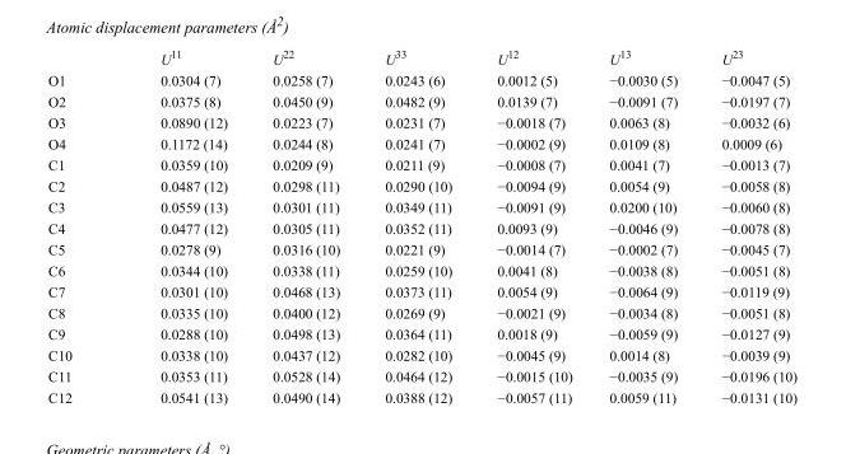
<table><thead><tr><td></td><td>U<sup>11</sup></td><td>U<sup>22</sup></td><td>U<sup>33</sup></td><td>U<sup>12</sup></td><td>U<sup>13</sup></td><td>U<sup>23</sup></td></tr></thead><tbody><tr><td>O1</td><td>0.0304 (7)</td><td>0.0258 (7)</td><td>0.0243 (6)</td><td>0.0012 (5)</td><td>−0.0030 (5)</td><td>−0.0047 (5)</td></tr><tr><td>O2</td><td>0.0375 (8)</td><td>0.0450 (9)</td><td>0.0482 (9)</td><td>0.0139 (7)</td><td>−0.0091 (7)</td><td>−0.0197 (7)</td></tr><tr><td>O3</td><td>0.0890 (12)</td><td>0.0223 (7)</td><td>0.0231 (7)</td><td>−0.0018 (7)</td><td>0.0063 (8)</td><td>−0.0032 (6)</td></tr><tr><td>O4</td><td>0.1172 (14)</td><td>0.0244 (8)</td><td>0.0241 (7)</td><td>−0.0002 (9)</td><td>0.0109 (8)</td><td>0.0009 (6)</td></tr><tr><td>C1</td><td>0.0359 (10)</td><td>0.0209 (9)</td><td>0.0211 (9)</td><td>−0.0008 (7)</td><td>0.0041 (7)</td><td>−0.0013 (7)</td></tr><tr><td>C2</td><td>0.0487 (12)</td><td>0.0298 (11)</td><td>0.0290 (10)</td><td>−0.0094 (9)</td><td>0.0054 (9)</td><td>−0.0058 (8)</td></tr><tr><td>C3</td><td>0.0559 (13)</td><td>0.0301 (11)</td><td>0.0349 (11)</td><td>−0.0091 (9)</td><td>0.0200 (10)</td><td>−0.0060 (8)</td></tr><tr><td>C4</td><td>0.0477 (12)</td><td>0.0305 (11)</td><td>0.0352 (11)</td><td>0.0093 (9)</td><td>−0.0046 (9)</td><td>−0.0078 (8)</td></tr><tr><td>C5</td><td>0.0278 (9)</td><td>0.0316 (10)</td><td>0.0221 (9)</td><td>−0.0014 (7)</td><td>−0.0002 (7)</td><td>−0.0045 (7)</td></tr><tr><td>C6</td><td>0.0344 (10)</td><td>0.0338 (11)</td><td>0.0259 (10)</td><td>0.0041 (8)</td><td>−0.0038 (8)</td><td>−0.0051 (8)</td></tr><tr><td>C7</td><td>0.0301 (10)</td><td>0.0468 (13)</td><td>0.0373 (11)</td><td>0.0054 (9)</td><td>−0.0064 (9)</td><td>−0.0119 (9)</td></tr><tr><td>C8</td><td>0.0335 (10)</td><td>0.0400 (12)</td><td>0.0269 (9)</td><td>−0.0021 (9)</td><td>−0.0034 (8)</td><td>−0.0051 (8)</td></tr><tr><td>C9</td><td>0.0288 (10)</td><td>0.0498 (13)</td><td>0.0364 (11)</td><td>0.0018 (9)</td><td>−0.0059 (9)</td><td>−0.0127 (9)</td></tr><tr><td>C10</td><td>0.0338 (10)</td><td>0.0437 (12)</td><td>0.0282 (10)</td><td>−0.0045 (9)</td><td>0.0014 (8)</td><td>−0.0039 (9)</td></tr><tr><td>C11</td><td>0.0353 (11)</td><td>0.0528 (14)</td><td>0.0464 (12)</td><td>−0.0015 (10)</td><td>−0.0035 (9)</td><td>−0.0196 (10)</td></tr><tr><td>C12</td><td>0.0541 (13)</td><td>0.0490 (14)</td><td>0.0388 (12)</td><td>−0.0057 (11)</td><td>0.0059 (11)</td><td>−0.0131 (10)</td></tr></tbody></table>